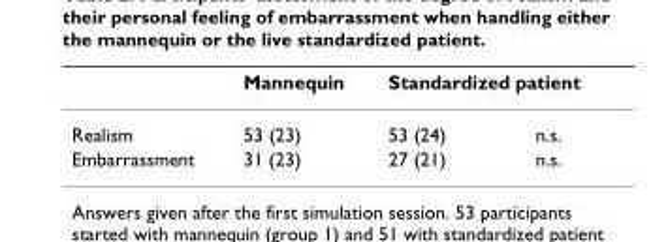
<table><thead><tr><td rowspan="2">Realism</td><td rowspan="2">Mannequin 53 (23)</td><td colspan="2">Standardized patient</td></tr><tr><td>53 (24)</td><td>n.s.</td></tr></thead><tbody><tr><td>Embarrassment</td><td>31 (23)</td><td>27 (21)</td><td>n.s.</td></tr></tbody></table>